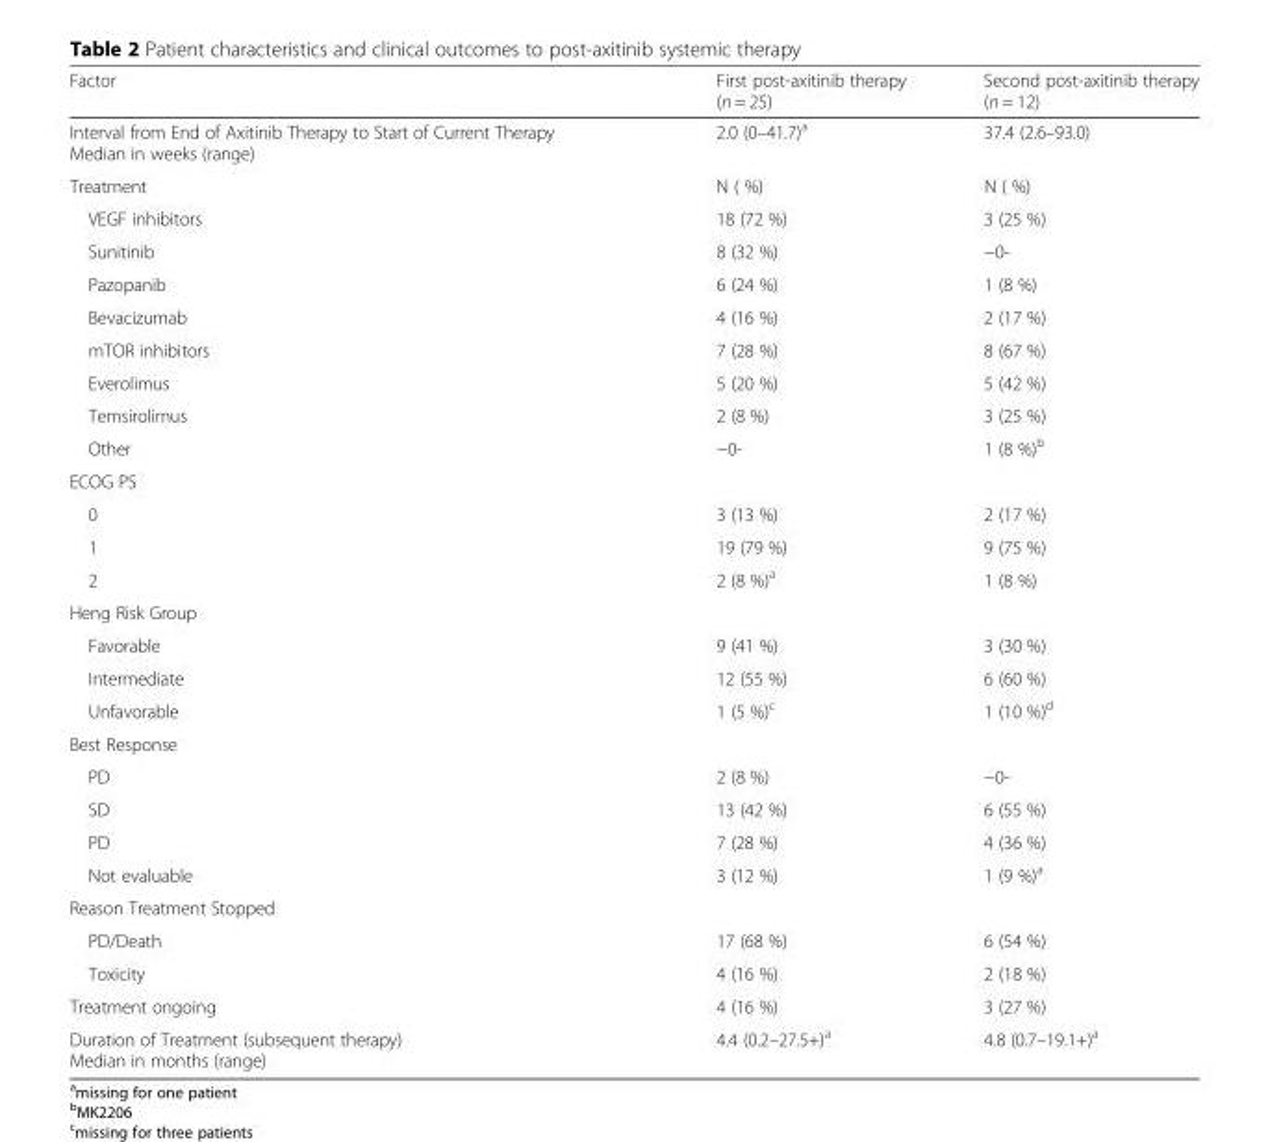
<table><thead><tr><td>Factor</td><td>First post-axitinib therapy (n = 25)</td><td>Second post-axitinib therapy (n = 12)</td></tr></thead><tbody><tr><td>Interval from End of Axitinib Therapy to Start of Current Therapy Median in weeks (range)</td><td>2.0 (0–41.7)<sup>a</sup></td><td>37.4 (2.6–93.0)</td></tr><tr><td>Treatment</td><td>N ( %)</td><td>N ( %)</td></tr><tr><td>VEGF inhibitors</td><td>18 (72 %)</td><td>3 (25 %)</td></tr><tr><td>Sunitinib</td><td>8 (32 %)</td><td>−0-</td></tr><tr><td>Pazopanib</td><td>6 (24 %)</td><td>1 (8 %)</td></tr><tr><td>Bevacizumab</td><td>4 (16 %)</td><td>2 (17 %)</td></tr><tr><td>mTOR inhibitors</td><td>7 (28 %)</td><td>8 (67 %)</td></tr><tr><td>Everolimus</td><td>5 (20 %)</td><td>5 (42 %)</td></tr><tr><td>Temsirolimus</td><td>2 (8 %)</td><td>3 (25 %)</td></tr><tr><td>Other</td><td>−0-</td><td>1 (8 %)<sup>b</sup></td></tr><tr><td colspan="3">ECOG PS</td></tr><tr><td>0</td><td>3 (13 %)</td><td>2 (17 %)</td></tr><tr><td>1</td><td>19 (79 %)</td><td>9 (75 %)</td></tr><tr><td>2</td><td>2 (8 %)<sup>a</sup></td><td>1 (8 %)</td></tr><tr><td colspan="3">Heng Risk Group</td></tr><tr><td>Favorable</td><td>9 (41 %)</td><td>3 (30 %)</td></tr><tr><td>Intermediate</td><td>12 (55 %)</td><td>6 (60 %)</td></tr><tr><td>Unfavorable</td><td>1 (5 %)<sup>c</sup></td><td>1 (10 %)<sup>d</sup></td></tr><tr><td colspan="3">Best Response</td></tr><tr><td>PD</td><td>2 (8 %)</td><td>−0-</td></tr><tr><td>SD</td><td>13 (42 %)</td><td>6 (55 %)</td></tr><tr><td>PD</td><td>7 (28 %)</td><td>4 (36 %)</td></tr><tr><td>Not evaluable</td><td>3 (12 %)</td><td>1 (9 %)<sup>a</sup></td></tr><tr><td colspan="3">Reason Treatment Stopped</td></tr><tr><td>PD/Death</td><td>17 (68 %)</td><td>6 (54 %)</td></tr><tr><td>Toxicity</td><td>4 (16 %)</td><td>2 (18 %)</td></tr><tr><td>Treatment ongoing</td><td>4 (16 %)</td><td>3 (27 %)</td></tr><tr><td>Duration of Treatment (subsequent therapy) Median in months (range)</td><td>4.4 (0.2–27.5+)<sup>a</sup></td><td>4.8 (0.7–19.1+)<sup>a</sup></td></tr></tbody></table>